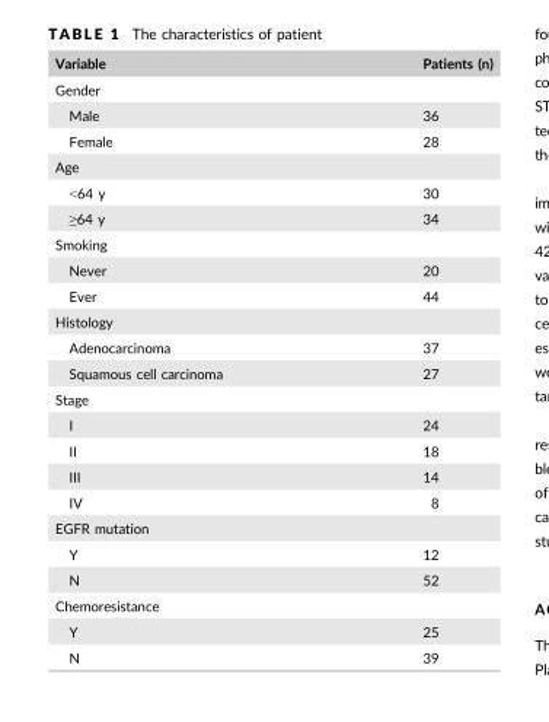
<table><thead><tr><td>Variable</td><td>Patients (n)</td></tr></thead><tbody><tr><td colspan="2">Gender</td></tr><tr><td>Male</td><td>36</td></tr><tr><td>Female</td><td>28</td></tr><tr><td colspan="2">Age</td></tr><tr><td>&lt;64 y</td><td>30</td></tr><tr><td>≥64 y</td><td>34</td></tr><tr><td colspan="2">Smoking</td></tr><tr><td>Never</td><td>20</td></tr><tr><td>Ever</td><td>44</td></tr><tr><td colspan="2">Histology</td></tr><tr><td>Adenocarcinoma</td><td>37</td></tr><tr><td>Squamous cell carcinoma</td><td>27</td></tr><tr><td colspan="2">Stage</td></tr><tr><td>I</td><td>24</td></tr><tr><td>II</td><td>18</td></tr><tr><td>III</td><td>14</td></tr><tr><td>IV</td><td>8</td></tr><tr><td colspan="2">EGFR mutation</td></tr><tr><td>Y</td><td>12</td></tr><tr><td>N</td><td>52</td></tr><tr><td colspan="2">Chemoresistance</td></tr><tr><td>Y</td><td>25</td></tr><tr><td>N</td><td>39</td></tr></tbody></table>